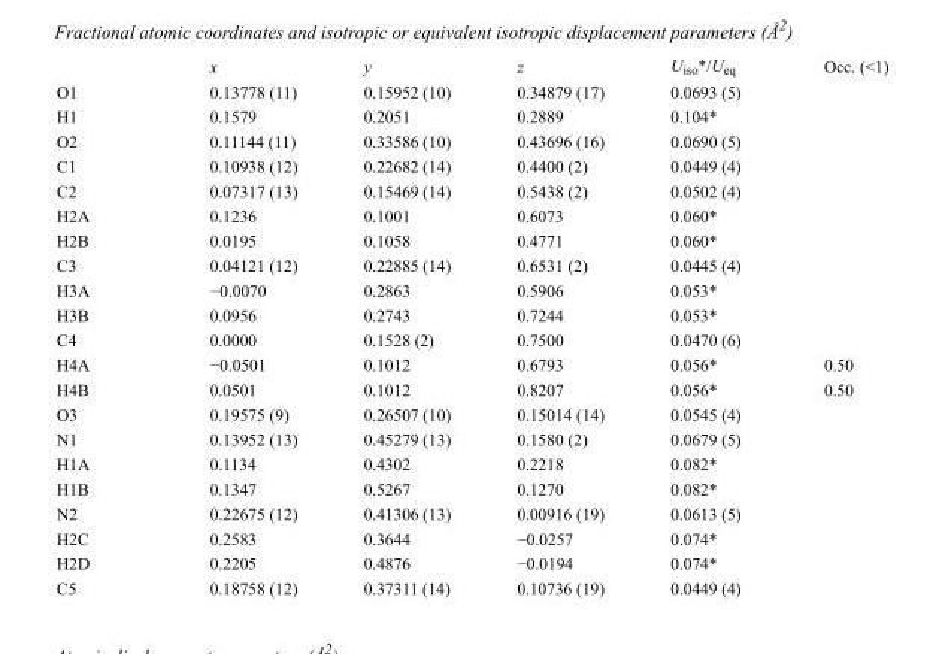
<table><thead><tr><td></td><td>x</td><td>y</td><td>z</td><td>U<sub>iso</sub>*/U<sub>eq</sub></td><td>Occ. (&lt;1)</td></tr></thead><tbody><tr><td>O1</td><td>0.13778 (11)</td><td>0.15952 (10)</td><td>0.34879 (17)</td><td>0.0693 (5)</td><td></td></tr><tr><td>H1</td><td>0.1579</td><td>0.2051</td><td>0.2889</td><td>0.104*</td><td></td></tr><tr><td>O2</td><td>0.11144 (11)</td><td>0.33586 (10)</td><td>0.43696 (16)</td><td>0.0690 (5)</td><td></td></tr><tr><td>C1</td><td>0.10938 (12)</td><td>0.22682 (14)</td><td>0.4400 (2)</td><td>0.0449 (4)</td><td></td></tr><tr><td>C2</td><td>0.07317 (13)</td><td>0.15469 (14)</td><td>0.5438 (2)</td><td>0.0502 (4)</td><td></td></tr><tr><td>H2A</td><td>0.1236</td><td>0.1001</td><td>0.6073</td><td>0.060*</td><td></td></tr><tr><td>H2B</td><td>0.0195</td><td>0.1058</td><td>0.4771</td><td>0.060*</td><td></td></tr><tr><td>C3</td><td>0.04121 (12)</td><td>0.22885 (14)</td><td>0.6531 (2)</td><td>0.0445 (4)</td><td></td></tr><tr><td>H3A</td><td>−0.0070</td><td>0.2863</td><td>0.5906</td><td>0.053*</td><td></td></tr><tr><td>H3B</td><td>0.0956</td><td>0.2743</td><td>0.7244</td><td>0.053*</td><td></td></tr><tr><td>C4</td><td>0.0000</td><td>0.1528 (2)</td><td>0.7500</td><td>0.0470 (6)</td><td></td></tr><tr><td>H4A</td><td>−0.0501</td><td>0.1012</td><td>0.6793</td><td>0.056*</td><td>0.50</td></tr><tr><td>H4B</td><td>0.0501</td><td>0.1012</td><td>0.8207</td><td>0.056*</td><td>0.50</td></tr><tr><td>O3</td><td>0.19575 (9)</td><td>0.26507 (10)</td><td>0.15014 (14)</td><td>0.0545 (4)</td><td></td></tr><tr><td>N1</td><td>0.13952 (13)</td><td>0.45279 (13)</td><td>0.1580 (2)</td><td>0.0679 (5)</td><td></td></tr><tr><td>H1A</td><td>0.1134</td><td>0.4302</td><td>0.2218</td><td>0.082*</td><td></td></tr><tr><td>H1B</td><td>0.1347</td><td>0.5267</td><td>0.1270</td><td>0.082*</td><td></td></tr><tr><td>N2</td><td>0.22675 (12)</td><td>0.41306 (13)</td><td>0.00916 (19)</td><td>0.0613 (5)</td><td></td></tr><tr><td>H2C</td><td>0.2583</td><td>0.3644</td><td>−0.0257</td><td>0.074*</td><td></td></tr><tr><td>H2D</td><td>0.2205</td><td>0.4876</td><td>−0.0194</td><td>0.074*</td><td></td></tr><tr><td>C5</td><td>0.18758 (12)</td><td>0.37311 (14)</td><td>0.10736 (19)</td><td>0.0449 (4)</td><td></td></tr></tbody></table>